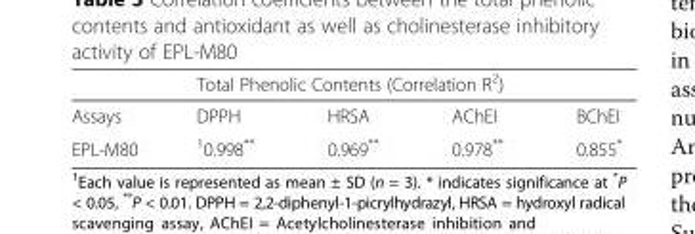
<table><thead><tr><td rowspan="2">Assays</td><td colspan="4">Total Phenolic Contents (Correlation R<sup>2</sup>)</td></tr><tr><td>DPPH</td><td>HRSA</td><td>AChEI</td><td>BChEI</td></tr></thead><tbody><tr><td>EPL-M80</td><td><sup>1</sup>0.998**</td><td>0.969**</td><td>0.978**</td><td>0.855*</td></tr></tbody></table>